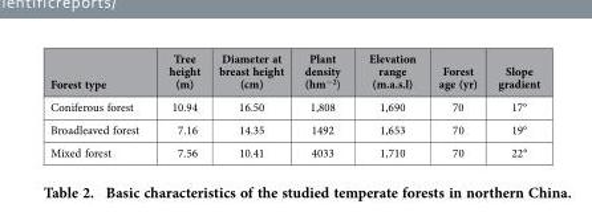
<table><thead><tr><td>Forest type</td><td>Tree height (m)</td><td>Diameter at breast height (cm)</td><td>Plant density (hm<sup>−2</sup>)</td><td>Elevation range (m.a.s.l)</td><td>Forest age (yr)</td><td>Slope gradient</td></tr></thead><tbody><tr><td>Coniferous forest</td><td>10.94</td><td>16.50</td><td>1,808</td><td>1,690</td><td>70</td><td>17°</td></tr><tr><td>Broadleaved forest</td><td>7.16</td><td>14.35</td><td>1492</td><td>1,653</td><td>70</td><td>19°</td></tr><tr><td>Mixed forest</td><td>7.56</td><td>10.41</td><td>4033</td><td>1,710</td><td>70</td><td>22°</td></tr></tbody></table>